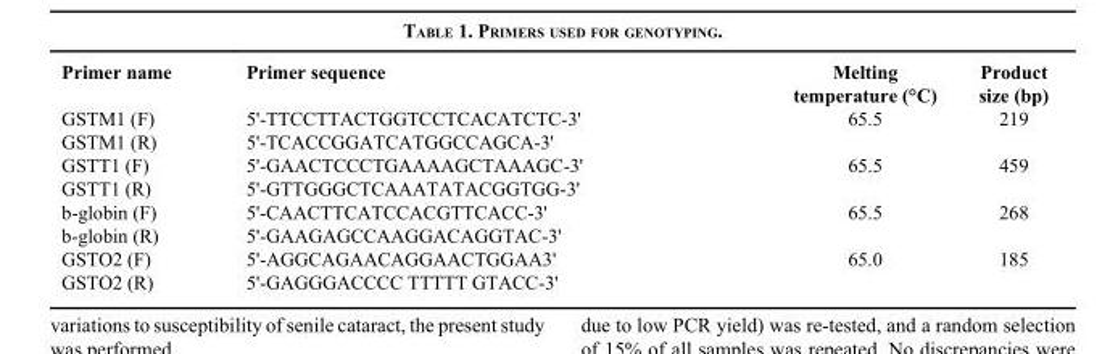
<table><thead><tr><td>Primer name</td><td>Primer sequence</td><td>Melting temperature (°C)</td><td>Product size (bp)</td></tr></thead><tbody><tr><td>GSTM1 (F)</td><td>5&#x27;-TTCCTTACTGGTCCTCACATCTC-3&#x27;</td><td>65.5</td><td>219</td></tr><tr><td>GSTM1 (R)</td><td>5&#x27;-TCACCGGATCATGGCCAGCA-3&#x27;</td><td></td><td></td></tr><tr><td>GSTT1 (F)</td><td>5&#x27;-GAACTCCCTGAAAAGCTAAAGC-3&#x27;</td><td>65.5</td><td>459</td></tr><tr><td>GSTT1 (R)</td><td>5&#x27;-GTTGGGCTCAAATATACGGTGG-3&#x27;</td><td></td><td></td></tr><tr><td>b-globin (F)</td><td>5&#x27;-CAACTTCATCCACGTTCACC-3&#x27;</td><td>65.5</td><td>268</td></tr><tr><td>b-globin (R)</td><td>5&#x27;-GAAGAGCCAAGGACAGGTAC-3&#x27;</td><td></td><td></td></tr><tr><td>GSTO2 (F)</td><td>5&#x27;-AGGCAGAACAGGAACTGGAA3&#x27;</td><td>65.0</td><td>185</td></tr><tr><td>GSTO2 (R)</td><td>5&#x27;-GAGGGACCCC TTTTT GTACC-3&#x27;</td><td></td><td></td></tr></tbody></table>